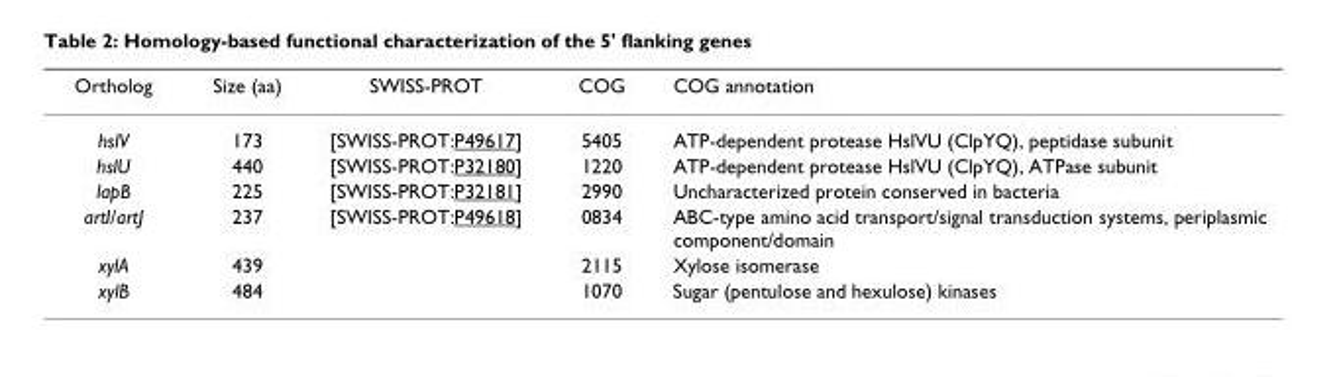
<table><thead><tr><td>Ortholog</td><td>Size (aa)</td><td>SWISS-PROT</td><td>COG</td><td>COG annotation</td></tr></thead><tbody><tr><td>hslV</td><td>173</td><td>[SWISS-PROT:P49617]</td><td>5405</td><td>ATP-dependent protease HslVU (ClpYQ), peptidase subunit</td></tr><tr><td>hslU</td><td>440</td><td>[SWISS-PROT:P32180]</td><td>1220</td><td>ATP-dependent protease HslVU (ClpYQ), ATPase subunit</td></tr><tr><td>lapB</td><td>225</td><td>[SWISS-PROT:P32181]</td><td>2990</td><td>Uncharacterized protein conserved in bacteria</td></tr><tr><td>artI/artJ</td><td>237</td><td>[SWISS-PROT:P49618]</td><td>0834</td><td>ABC-type amino acid transport/signal transduction systems, periplasmic component/domain</td></tr><tr><td>xylA</td><td>439</td><td></td><td>2115</td><td>Xylose isomerase</td></tr><tr><td>xylB</td><td>484</td><td></td><td>1070</td><td>Sugar (pentulose and hexulose) kinases</td></tr></tbody></table>